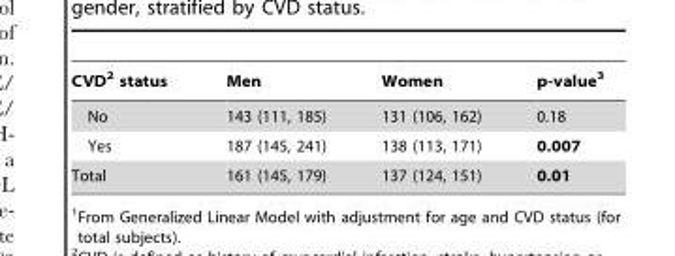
<table><thead><tr><td>CVD<sup>2</sup> status</td><td>Men</td><td>Women</td><td>p-value<sup>3</sup></td></tr></thead><tbody><tr><td>No</td><td>143 (111, 185)</td><td>131 (106, 162)</td><td>0.18</td></tr><tr><td>Yes</td><td>187 (145, 241)</td><td>138 (113, 171)</td><td>0.007</td></tr><tr><td>Total</td><td>161 (145, 179)</td><td>137 (124, 151)</td><td>0.01</td></tr></tbody></table>